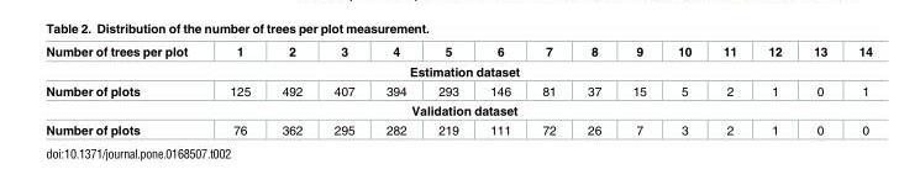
<table><thead><tr><td>Number of trees per plot</td><td>1</td><td>2</td><td>3</td><td>4</td><td>5</td><td>6</td><td>7</td><td>8</td><td>9</td><td>10</td><td>11</td><td>12</td><td>13</td><td>14</td></tr></thead><tbody><tr><td colspan="15">Estimation dataset</td></tr><tr><td>Number of plots</td><td>125</td><td>492</td><td>407</td><td>394</td><td>293</td><td>146</td><td>81</td><td>37</td><td>15</td><td>5</td><td>2</td><td>1</td><td>0</td><td>1</td></tr><tr><td colspan="15">Validation dataset</td></tr><tr><td>Number of plots</td><td>76</td><td>362</td><td>295</td><td>282</td><td>219</td><td>111</td><td>72</td><td>26</td><td>7</td><td>3</td><td>2</td><td>1</td><td>0</td><td>0</td></tr></tbody></table>